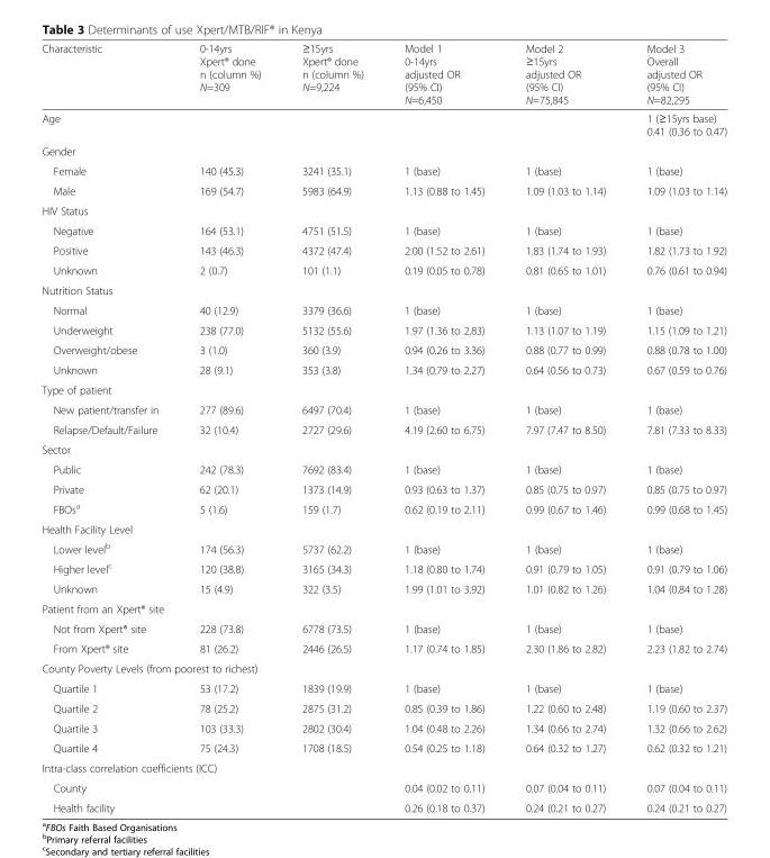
<table><thead><tr><td>Characteristic</td><td>0-14yrs Xpert® done n (column %) N=309</td><td>≥15yrs Xpert® done n (column %) N=9,224</td><td>Model 1 0-14yrs adjusted OR (95% CI) N=6,450</td><td>Model 2 ≥15yrs adjusted OR (95% CI) N=75,845</td><td>Model 3 Overall adjusted OR (95% CI) N=82,295</td></tr></thead><tbody><tr><td>Age</td><td colspan="4"></td><td>1 (≥15yrs base) 0.41 (0.36 to 0.47)</td></tr><tr><td colspan="6">Gender</td></tr><tr><td>Female</td><td>140 (45.3)</td><td>3241 (35.1)</td><td>1 (base)</td><td>1 (base)</td><td>1 (base)</td></tr><tr><td>Male</td><td>169 (54.7)</td><td>5983 (64.9)</td><td>1.13 (0.88 to 1.45)</td><td>1.09 (1.03 to 1.14)</td><td>1.09 (1.03 to 1.14)</td></tr><tr><td colspan="6">HIV Status</td></tr><tr><td>Negative</td><td>164 (53.1)</td><td>4751 (51.5)</td><td>1 (base)</td><td>1 (base)</td><td>1 (base)</td></tr><tr><td>Positive</td><td>143 (46.3)</td><td>4372 (47.4)</td><td>2.00 (1.52 to 2.61)</td><td>1.83 (1.74 to 1.93)</td><td>1.82 (1.73 to 1.92)</td></tr><tr><td>Unknown</td><td>2 (0.7)</td><td>101 (1.1)</td><td>0.19 (0.05 to 0.78)</td><td>0.81 (0.65 to 1.01)</td><td>0.76 (0.61 to 0.94)</td></tr><tr><td colspan="6">Nutrition Status</td></tr><tr><td>Normal</td><td>40 (12.9)</td><td>3379 (36.6)</td><td>1 (base)</td><td>1 (base)</td><td>1 (base)</td></tr><tr><td>Underweight</td><td>238 (77.0)</td><td>5132 (55.6)</td><td>1.97 (1.36 to 2.83)</td><td>1.13 (1.07 to 1.19)</td><td>1.15 (1.09 to 1.21)</td></tr><tr><td>Overweight/obese</td><td>3 (1.0)</td><td>360 (3.9)</td><td>0.94 (0.26 to 3.36)</td><td>0.88 (0.77 to 0.99)</td><td>0.88 (0.78 to 1.00)</td></tr><tr><td>Unknown</td><td>28 (9.1)</td><td>353 (3.8)</td><td>1.34 (0.79 to 2.27)</td><td>0.64 (0.56 to 0.73)</td><td>0.67 (0.59 to 0.76)</td></tr><tr><td colspan="6">Type of patient</td></tr><tr><td>New patient/transfer in</td><td>277 (89.6)</td><td>6497 (70.4)</td><td>1 (base)</td><td>1 (base)</td><td>1 (base)</td></tr><tr><td>Relapse/Default/Failure</td><td>32 (10.4)</td><td>2727 (29.6)</td><td>4.19 (2.60 to 6.75)</td><td>7.97 (7.47 to 8.50)</td><td>7.81 (7.33 to 8.33)</td></tr><tr><td colspan="6">Sector</td></tr><tr><td>Public</td><td>242 (78.3)</td><td>7692 (83.4)</td><td>1 (base)</td><td>1 (base)</td><td>1 (base)</td></tr><tr><td>Private</td><td>62 (20.1)</td><td>1373 (14.9)</td><td>0.93 (0.63 to 1.37)</td><td>0.85 (0.75 to 0.97)</td><td>0.85 (0.75 to 0.97)</td></tr><tr><td>FBOs<sup>a</sup></td><td>5 (1.6)</td><td>159 (1.7)</td><td>0.62 (0.19 to 2.11)</td><td>0.99 (0.67 to 1.46)</td><td>0.99 (0.68 to 1.45)</td></tr><tr><td colspan="6">Health Facility Level</td></tr><tr><td>Lower level<sup>b</sup></td><td>174 (56.3)</td><td>5737 (62.2)</td><td>1 (base)</td><td>1 (base)</td><td>1 (base)</td></tr><tr><td>Higher level<sup>c</sup></td><td>120 (38.8)</td><td>3165 (34.3)</td><td>1.18 (0.80 to 1.74)</td><td>0.91 (0.79 to 1.05)</td><td>0.91 (0.79 to 1.06)</td></tr><tr><td>Unknown</td><td>15 (4.9)</td><td>322 (3.5)</td><td>1.99 (1.01 to 3.92)</td><td>1.01 (0.82 to 1.26)</td><td>1.04 (0.84 to 1.28)</td></tr><tr><td colspan="6">Patient from an Xpert® site</td></tr><tr><td>Not from Xpert® site</td><td>228 (73.8)</td><td>6778 (73.5)</td><td>1 (base)</td><td>1 (base)</td><td>1 (base)</td></tr><tr><td>From Xpert® site</td><td>81 (26.2)</td><td>2446 (26.5)</td><td>1.17 (0.74 to 1.85)</td><td>2.30 (1.86 to 2.82)</td><td>2.23 (1.82 to 2.74)</td></tr><tr><td colspan="6">County Poverty Levels (from poorest to richest)</td></tr><tr><td>Quartile 1</td><td>53 (17.2)</td><td>1839 (19.9)</td><td>1 (base)</td><td>1 (base)</td><td>1 (base)</td></tr><tr><td>Quartile 2</td><td>78 (25.2)</td><td>2875 (31.2)</td><td>0.85 (0.39 to 1.86)</td><td>1.22 (0.60 to 2.48)</td><td>1.19 (0.60 to 2.37)</td></tr><tr><td>Quartile 3</td><td>103 (33.3)</td><td>2802 (30.4)</td><td>1.04 (0.48 to 2.26)</td><td>1.34 (0.66 to 2.74)</td><td>1.32 (0.66 to 2.62)</td></tr><tr><td>Quartile 4</td><td>75 (24.3)</td><td>1708 (18.5)</td><td>0.54 (0.25 to 1.18)</td><td>0.64 (0.32 to 1.27)</td><td>0.62 (0.32 to 1.21)</td></tr><tr><td colspan="6">Intra-class correlation coefficients (ICC)</td></tr><tr><td>County</td><td rowspan="2" colspan="2"></td><td>0.04 (0.02 to 0.11)</td><td>0.07 (0.04 to 0.11)</td><td>0.07 (0.04 to 0.11)</td></tr><tr><td>Health facility</td><td>0.26 (0.18 to 0.37)</td><td>0.24 (0.21 to 0.27)</td><td>0.24 (0.21 to 0.27)</td></tr></tbody></table>